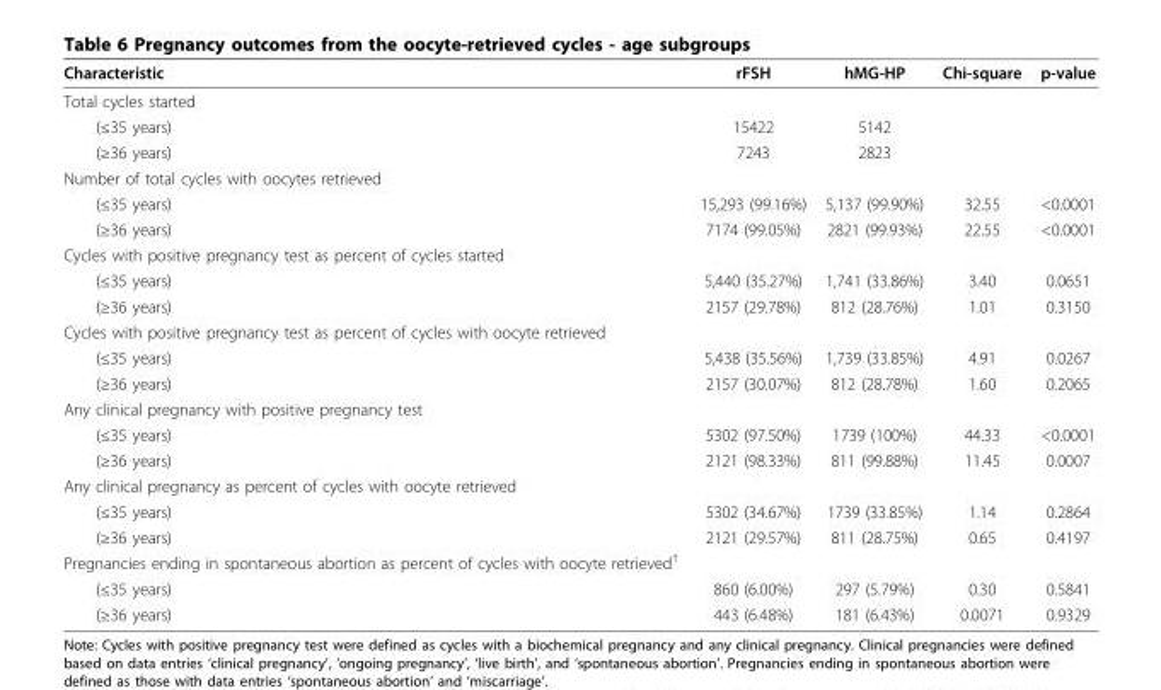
<table><thead><tr><td>Characteristic</td><td>rFSH</td><td>hMG-HP</td><td>Chi-square</td><td>p-value</td></tr></thead><tbody><tr><td colspan="5">Total cycles started</td></tr><tr><td>(≤35 years)</td><td>15422</td><td>5142</td><td></td><td></td></tr><tr><td>(≥36 years)</td><td>7243</td><td>2823</td><td></td><td></td></tr><tr><td colspan="5">Number of total cycles with oocytes retrieved</td></tr><tr><td>(≤35 years)</td><td>15,293 (99.16%)</td><td>5,137 (99.90%)</td><td>32.55</td><td>&lt;0.0001</td></tr><tr><td>(≥36 years)</td><td>7174 (99.05%)</td><td>2821 (99.93%)</td><td>22.55</td><td>&lt;0.0001</td></tr><tr><td colspan="5">Cycles with positive pregnancy test as percent of cycles started</td></tr><tr><td>(≤35 years)</td><td>5,440 (35.27%)</td><td>1,741 (33.86%)</td><td>3.40</td><td>0.0651</td></tr><tr><td>(≥36 years)</td><td>2157 (29.78%)</td><td>812 (28.76%)</td><td>1.01</td><td>0.3150</td></tr><tr><td colspan="5">Cycles with positive pregnancy test as percent of cycles with oocyte retrieved</td></tr><tr><td>(≤35 years)</td><td>5,438 (35.56%)</td><td>1,739 (33.85%)</td><td>4.91</td><td>0.0267</td></tr><tr><td>(≥36 years)</td><td>2157 (30.07%)</td><td>812 (28.78%)</td><td>1.60</td><td>0.2065</td></tr><tr><td colspan="5">Any clinical pregnancy with positive pregnancy test</td></tr><tr><td>(≤35 years)</td><td>5302 (97.50%)</td><td>1739 (100%)</td><td>44.33</td><td>&lt;0.0001</td></tr><tr><td>(≥36 years)</td><td>2121 (98.33%)</td><td>811 (99.88%)</td><td>11.45</td><td>0.0007</td></tr><tr><td colspan="5">Any clinical pregnancy as percent of cycles with oocyte retrieved</td></tr><tr><td>(≤35 years)</td><td>5302 (34.67%)</td><td>1739 (33.85%)</td><td>1.14</td><td>0.2864</td></tr><tr><td>(≥36 years)</td><td>2121 (29.57%)</td><td>811 (28.75%)</td><td>0.65</td><td>0.4197</td></tr><tr><td colspan="5">Pregnancies ending in spontaneous abortion as percent of cycles with oocyte retrieved<sup>†</sup></td></tr><tr><td>(≤35 years)</td><td>860 (6.00%)</td><td>297 (5.79%)</td><td>0.30</td><td>0.5841</td></tr><tr><td>(≥36 years)</td><td>443 (6.48%)</td><td>181 (6.43%)</td><td>0.0071</td><td>0.9329</td></tr></tbody></table>